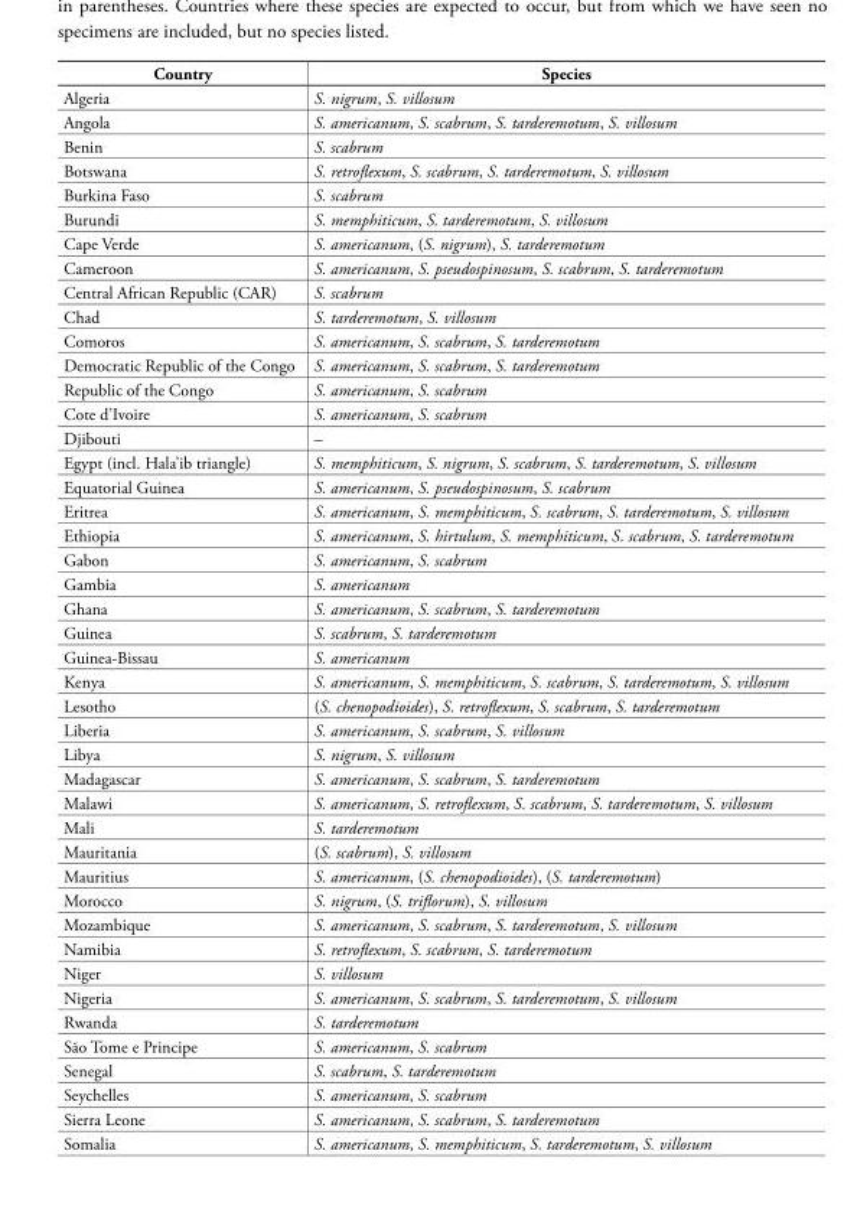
<table><thead><tr><td>Country</td><td>Species</td></tr></thead><tbody><tr><td>Algeria</td><td>S. nigrum, S. villosum</td></tr><tr><td>Angola</td><td>S. americanum, S. scabrum, S. tarderemotum, S. villosum</td></tr><tr><td>Benin</td><td>S. scabrum</td></tr><tr><td>Botswana</td><td>S. retroflexum, S. scabrum, S. tarderemotum, S. villosum</td></tr><tr><td>Burkina Faso</td><td>S. scabrum</td></tr><tr><td>Burundi</td><td>S. memphiticum, S. tarderemotum, S. villosum</td></tr><tr><td>Cape Verde</td><td>S. americanum, (S. nigrum), S. tarderemotum</td></tr><tr><td>Cameroon</td><td>S. americanum, S. pseudospinosum, S. scabrum, S. tarderemotum</td></tr><tr><td>Central African Republic (CAR)</td><td>S. scabrum</td></tr><tr><td>Chad</td><td>S. tarderemotum, S. villosum</td></tr><tr><td>Comoros</td><td>S. americanum, S. scabrum, S. tarderemotum</td></tr><tr><td>Democratic Republic of the Congo</td><td>S. americanum, S. scabrum, S. tarderemotum</td></tr><tr><td>Republic of the Congo</td><td>S. americanum, S. scabrum</td></tr><tr><td>Cote d’Ivoire</td><td>S. americanum, S. scabrum</td></tr><tr><td>Djibouti</td><td>–</td></tr><tr><td>Egypt (incl. Hala’ib triangle)</td><td>S. memphiticum, S. nigrum, S. scabrum, S. tarderemotum, S. villosum</td></tr><tr><td>Equatorial Guinea</td><td>S. americanum, S. pseudospinosum, S. scabrum</td></tr><tr><td>Eritrea</td><td>S. americanum, S. memphiticum, S. scabrum, S. tarderemotum, S. villosum</td></tr><tr><td>Ethiopia</td><td>S. americanum, S. hirtulum, S. memphiticum, S. scabrum, S. tarderemotum</td></tr><tr><td>Gabon</td><td>S. americanum, S. scabrum</td></tr><tr><td>Gambia</td><td>S. americanum</td></tr><tr><td>Ghana</td><td>S. americanum, S. scabrum, S. tarderemotum</td></tr><tr><td>Guinea</td><td>S. scabrum, S. tarderemotum</td></tr><tr><td>Guinea-Bissau</td><td>S. americanum</td></tr><tr><td>Kenya</td><td>S. americanum, S. memphiticum, S. scabrum, S. tarderemotum, S. villosum</td></tr><tr><td>Lesotho</td><td>(S. chenopodioides), S. retroflexum, S. scabrum, S. tarderemotum</td></tr><tr><td>Liberia</td><td>S. americanum, S. scabrum, S. villosum</td></tr><tr><td>Libya</td><td>S. nigrum, S. villosum</td></tr><tr><td>Madagascar</td><td>S. americanum, S. scabrum, S. tarderemotum</td></tr><tr><td>Malawi</td><td>S. americanum, S. retroflexum, S. scabrum, S. tarderemotum, S. villosum</td></tr><tr><td>Mali</td><td>S. tarderemotum</td></tr><tr><td>Mauritania</td><td>(S. scabrum), S. villosum</td></tr><tr><td>Mauritius</td><td>S. americanum, (S. chenopodioides), (S. tarderemotum)</td></tr><tr><td>Morocco</td><td>S. nigrum, (S. triflorum), S. villosum</td></tr><tr><td>Mozambique</td><td>S. americanum, S. scabrum, S. tarderemotum, S. villosum</td></tr><tr><td>Namibia</td><td>S. retroflexum, S. scabrum, S. tarderemotum</td></tr><tr><td>Niger</td><td>S. villosum</td></tr><tr><td>Nigeria</td><td>S. americanum, S. scabrum, S. tarderemotum, S. villosum</td></tr><tr><td>Rwanda</td><td>S. tarderemotum</td></tr><tr><td>São Tome e Principe</td><td>S. americanum, S. scabrum</td></tr><tr><td>Senegal</td><td>S. scabrum, S. tarderemotum</td></tr><tr><td>Seychelles</td><td>S. americanum, S. scabrum</td></tr><tr><td>Sierra Leone</td><td>S. americanum, S. scabrum, S. tarderemotum</td></tr><tr><td>Somalia</td><td>S. americanum, S. memphiticum, S. tarderemotum, S. villosum</td></tr></tbody></table>